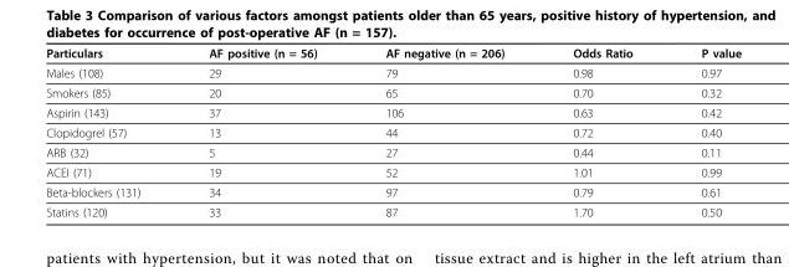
<table><thead><tr><td>Particulars</td><td>AF positive (n = 56)</td><td>AF negative (n = 206)</td><td>Odds Ratio</td><td>P value</td></tr></thead><tbody><tr><td>Males (108)</td><td>29</td><td>79</td><td>0.98</td><td>0.97</td></tr><tr><td>Smokers (85)</td><td>20</td><td>65</td><td>0.70</td><td>0.32</td></tr><tr><td>Aspirin (143)</td><td>37</td><td>106</td><td>0.63</td><td>0.42</td></tr><tr><td>Clopidogrel (57)</td><td>13</td><td>44</td><td>0.72</td><td>0.40</td></tr><tr><td>ARB (32)</td><td>5</td><td>27</td><td>0.44</td><td>0.11</td></tr><tr><td>ACEI (71)</td><td>19</td><td>52</td><td>1.01</td><td>0.99</td></tr><tr><td>Beta-blockers (131)</td><td>34</td><td>97</td><td>0.79</td><td>0.61</td></tr><tr><td>Statins (120)</td><td>33</td><td>87</td><td>1.70</td><td>0.50</td></tr></tbody></table>